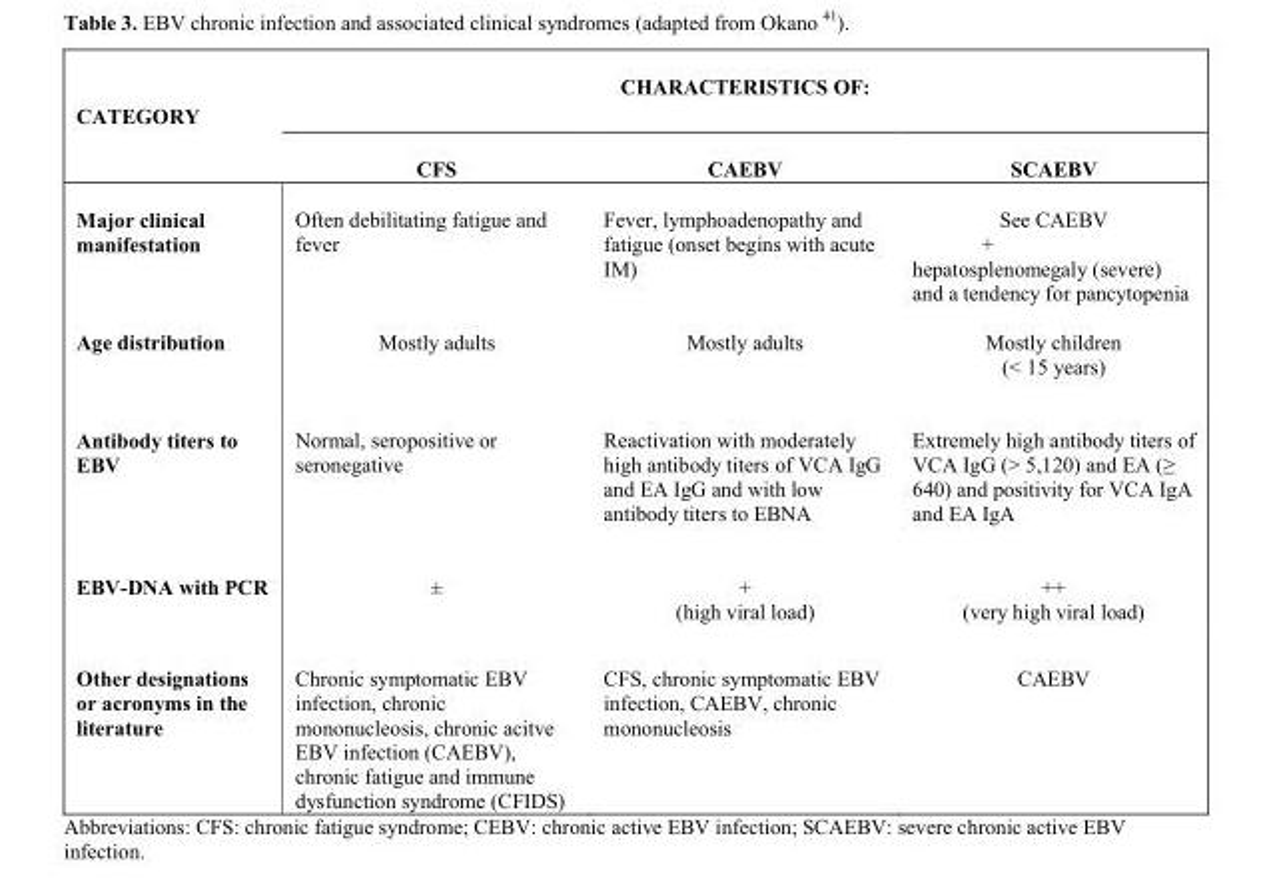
<table><thead><tr><td rowspan="2">CATEGORY</td><td colspan="3">CHARACTERISTICS OF:</td></tr><tr><td>CFS</td><td>CAEBV</td><td>SCAEBV</td></tr></thead><tbody><tr><td>Major clinical manifestation</td><td>Often debilitating fatigue and fever</td><td>Fever, lymphoadenopathy and fatigue (onset begins with acute IM)</td><td>See CAEBV + hepatosplenomegaly (severe) and a tendency for pancytopenia</td></tr><tr><td>Age distribution</td><td>Mostly adults</td><td>Mostly adults</td><td>Mostly children (&lt; 15 years)</td></tr><tr><td>Antibody titers to EBV</td><td>Normal, seropositive or seronegative</td><td>Reactivation with moderately high antibody titers of VCA IgG and EA IgG and with low antibody titers to EBNA</td><td>Extremely high antibody titers of VCA IgG (&gt; 5,120) and EA (≥ 640) and positivity for VCA IgA and EA IgA</td></tr><tr><td>EBV-DNA with PCR</td><td>±</td><td>+ (high viral load)</td><td>++ (very high viral load)</td></tr><tr><td>Other designations or acronyms in the literature</td><td>Chronic symptomatic EBV infection, chronic mononucleosis, chronic acitve EBV infection (CAEBV), chronic fatigue and immune dysfunction syndrome (CFIDS)</td><td>CFS, chronic symptomatic EBV infection, CAEBV, chronic mononucleosis</td><td>CAEBV</td></tr></tbody></table>